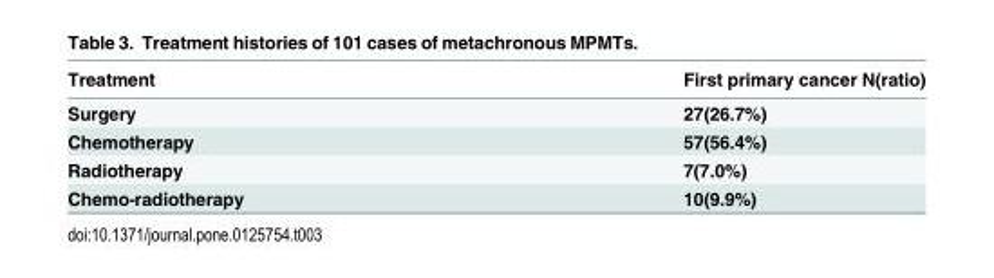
<table><thead><tr><td>Treatment</td><td>First primary cancer N(ratio)</td></tr></thead><tbody><tr><td>Surgery</td><td>27(26.7%)</td></tr><tr><td>Chemotherapy</td><td>57(56.4%)</td></tr><tr><td>Radiotherapy</td><td>7(7.0%)</td></tr><tr><td>Chemo-radiotherapy</td><td>10(9.9%)</td></tr></tbody></table>